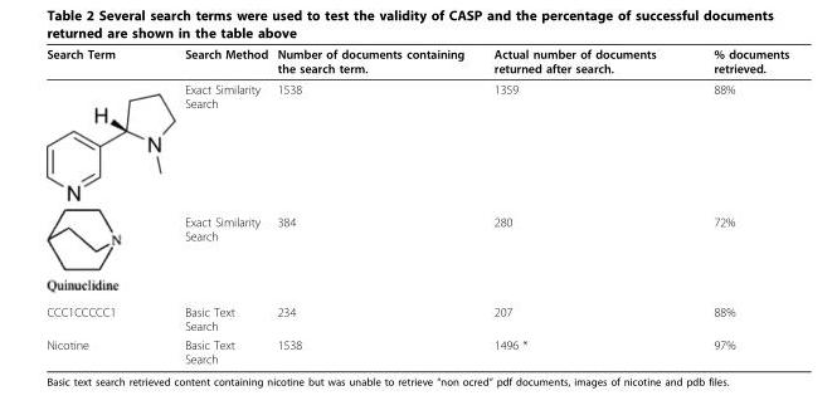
<table><thead><tr><td>Search Term</td><td>Search Method</td><td>Number of documents containing the search term.</td><td>Actual number of documents returned after search.</td><td>% documents retrieved.</td></tr></thead><tbody><tr><td></td><td>Exact Similarity Search</td><td>1538</td><td>1359</td><td>88%</td></tr><tr><td></td><td>Exact Similarity Search</td><td>384</td><td>280</td><td>72%</td></tr><tr><td>CCC1CCCCC1</td><td>Basic Text Search</td><td>234</td><td>207</td><td>88%</td></tr><tr><td>Nicotine</td><td>Basic Text Search</td><td>1538</td><td>1496 *</td><td>97%</td></tr></tbody></table>